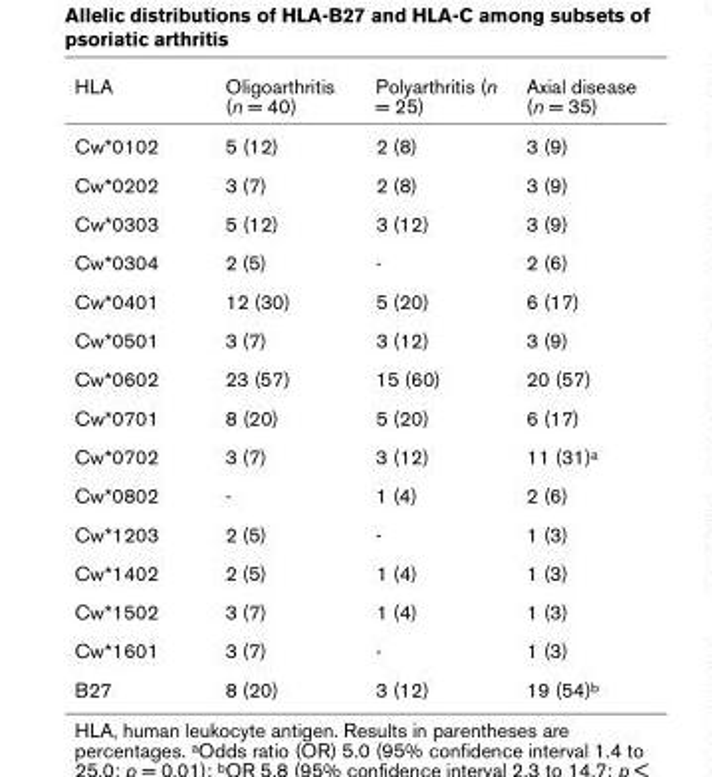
<table><thead><tr><td>HLA</td><td>Oligoarthritis (n = 40)</td><td>Polyarthritis (n = 25)</td><td>Axial disease (n = 35)</td></tr></thead><tbody><tr><td>Cw*0102</td><td>5 (12)</td><td>2 (8)</td><td>3 (9)</td></tr><tr><td>Cw*0202</td><td>3 (7)</td><td>2 (8)</td><td>3 (9)</td></tr><tr><td>Cw*0303</td><td>5 (12)</td><td>3 (12)</td><td>3 (9)</td></tr><tr><td>Cw*0304</td><td>2 (5)</td><td>-</td><td>2 (6)</td></tr><tr><td>Cw*0401</td><td>12 (30)</td><td>5 (20)</td><td>6 (17)</td></tr><tr><td>Cw*0501</td><td>3 (7)</td><td>3 (12)</td><td>3 (9)</td></tr><tr><td>Cw*0602</td><td>23 (57)</td><td>15 (60)</td><td>20 (57)</td></tr><tr><td>Cw*0701</td><td>8 (20)</td><td>5 (20)</td><td>6 (17)</td></tr><tr><td>Cw*0702</td><td>3 (7)</td><td>3 (12)</td><td>11 (31)a</td></tr><tr><td>Cw*0802</td><td>-</td><td>1 (4)</td><td>2 (6)</td></tr><tr><td>Cw*1203</td><td>2 (5)</td><td>-</td><td>1 (3)</td></tr><tr><td>Cw*1402</td><td>2 (5)</td><td>1 (4)</td><td>1 (3)</td></tr><tr><td>Cw*1502</td><td>3 (7)</td><td>1 (4)</td><td>1 (3)</td></tr><tr><td>Cw*1601</td><td>3 (7)</td><td>-</td><td>1 (3)</td></tr><tr><td>B27</td><td>8 (20)</td><td>3 (12)</td><td>19 (54)b</td></tr></tbody></table>